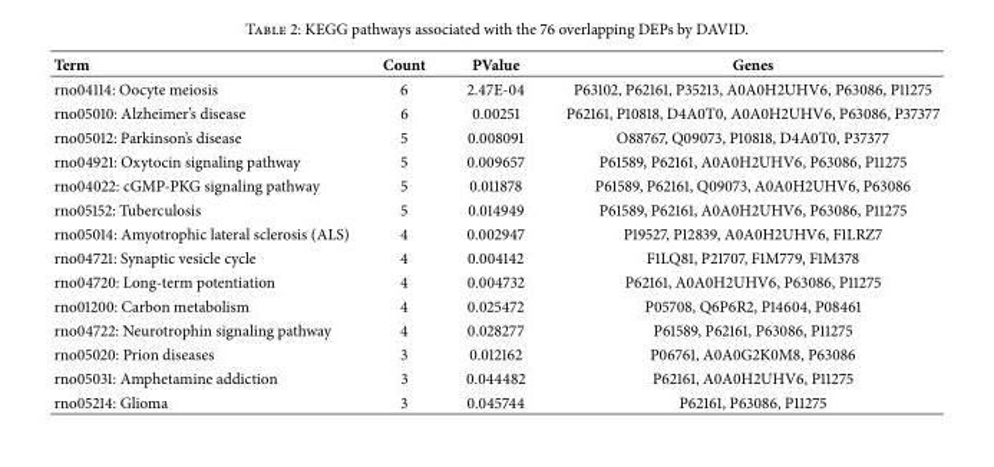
<table><thead><tr><td>Term</td><td>Count</td><td>PValue</td><td>Genes</td></tr></thead><tbody><tr><td>rno04114: Oocyte meiosis</td><td>6</td><td>2.47E-04</td><td>P63102, P62161, P35213, A0A0H2UHV6, P63086, P11275</td></tr><tr><td>rno05010: Alzheimer’s disease</td><td>6</td><td>0.00251</td><td>P62161, P10818, D4A0T0, A0A0H2UHV6, P63086, P37377</td></tr><tr><td>rno05012: Parkinson’s disease</td><td>5</td><td>0.008091</td><td>O88767, Q09073, P10818, D4A0T0, P37377</td></tr><tr><td>rno04921: Oxytocin signaling pathway</td><td>5</td><td>0.009657</td><td>P61589, P62161, A0A0H2UHV6, P63086, P11275</td></tr><tr><td>rno04022: cGMP-PKG signaling pathway</td><td>5</td><td>0.011878</td><td>P61589, P62161, Q09073, A0A0H2UHV6, P63086</td></tr><tr><td>rno05152: Tuberculosis</td><td>5</td><td>0.014949</td><td>P61589, P62161, A0A0H2UHV6, P63086, P11275</td></tr><tr><td>rno05014: Amyotrophic lateral sclerosis (ALS)</td><td>4</td><td>0.002947</td><td>P19527, P12839, A0A0H2UHV6, F1LRZ7</td></tr><tr><td>rno04721: Synaptic vesicle cycle</td><td>4</td><td>0.004142</td><td>F1LQ81, P21707, F1M779, F1M378</td></tr><tr><td>rno04720: Long-term potentiation</td><td>4</td><td>0.004732</td><td>P62161, A0A0H2UHV6, P63086, P11275</td></tr><tr><td>rno01200: Carbon metabolism</td><td>4</td><td>0.025472</td><td>P05708, Q6P6R2, P14604, P08461</td></tr><tr><td>rno04722: Neurotrophin signaling pathway</td><td>4</td><td>0.028277</td><td>P61589, P62161, P63086, P11275</td></tr><tr><td>rno05020: Prion diseases</td><td>3</td><td>0.012162</td><td>P06761, A0A0G2K0M8, P63086</td></tr><tr><td>rno05031: Amphetamine addiction</td><td>3</td><td>0.044482</td><td>P62161, A0A0H2UHV6, P11275</td></tr><tr><td>rno05214: Glioma</td><td>3</td><td>0.045744</td><td>P62161, P63086, P11275</td></tr></tbody></table>